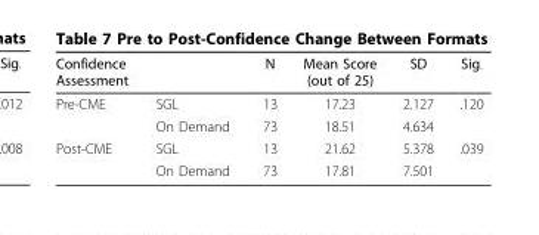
<table><thead><tr><td>Confidence Assessment</td><td></td><td>N</td><td>Mean Score (out of 25)</td><td>SD</td><td>Sig.</td></tr></thead><tbody><tr><td rowspan="2">Pre-CME</td><td>SGL</td><td>13</td><td>17.23</td><td>2.127</td><td>.120</td></tr><tr><td>On Demand</td><td>73</td><td>18.51</td><td>4.634</td><td></td></tr><tr><td rowspan="2">Post-CME</td><td>SGL</td><td>13</td><td>21.62</td><td>5.378</td><td>.039</td></tr><tr><td>On Demand</td><td>73</td><td>17.81</td><td>7.501</td><td></td></tr></tbody></table>